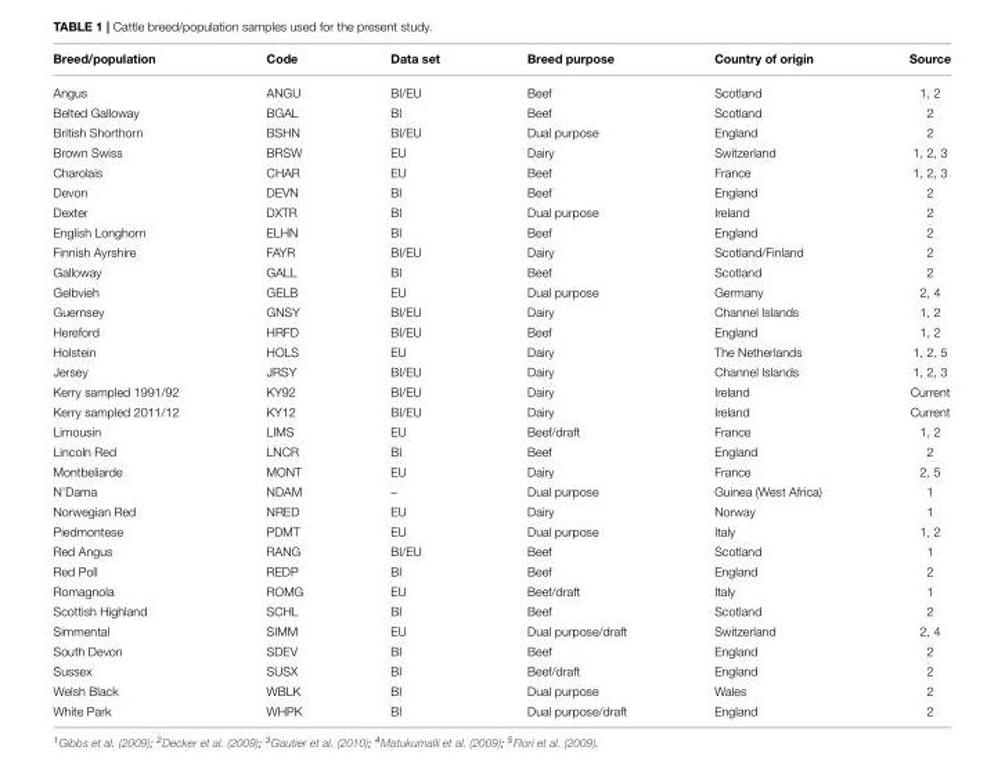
<table><thead><tr><td>Breed/population</td><td>Code</td><td>Data set</td><td>Breed purpose</td><td>Country of origin</td><td>Source</td></tr></thead><tbody><tr><td>Angus</td><td>ANGU</td><td>BI/EU</td><td>Beef</td><td>Scotland</td><td>1, 2</td></tr><tr><td>Belted Galloway</td><td>BGAL</td><td>BI</td><td>Beef</td><td>Scotland</td><td>2</td></tr><tr><td>British Shorthorn</td><td>BSHN</td><td>BI/EU</td><td>Dual purpose</td><td>England</td><td>2</td></tr><tr><td>Brown Swiss</td><td>BRSW</td><td>EU</td><td>Dairy</td><td>Switzerland</td><td>1, 2, 3</td></tr><tr><td>Charolais</td><td>CHAR</td><td>EU</td><td>Beef</td><td>France</td><td>1, 2, 3</td></tr><tr><td>Devon</td><td>DEVN</td><td>BI</td><td>Beef</td><td>England</td><td>2</td></tr><tr><td>Dexter</td><td>DXTR</td><td>BI</td><td>Dual purpose</td><td>Ireland</td><td>2</td></tr><tr><td>English Longhorn</td><td>ELHN</td><td>BI</td><td>Beef</td><td>England</td><td>2</td></tr><tr><td>Finnish Ayrshire</td><td>FAYR</td><td>BI/EU</td><td>Dairy</td><td>Scotland/Finland</td><td>2</td></tr><tr><td>Galloway</td><td>GALL</td><td>BI</td><td>Beef</td><td>Scotland</td><td>2</td></tr><tr><td>Gelbvieh</td><td>GELB</td><td>EU</td><td>Dual purpose</td><td>Germany</td><td>2, 4</td></tr><tr><td>Guernsey</td><td>GNSY</td><td>BI/EU</td><td>Dairy</td><td>Channel Islands</td><td>1, 2</td></tr><tr><td>Hereford</td><td>HRFD</td><td>BI/EU</td><td>Beef</td><td>England</td><td>1, 2</td></tr><tr><td>Holstein</td><td>HOLS</td><td>EU</td><td>Dairy</td><td>The Netherlands</td><td>1, 2, 5</td></tr><tr><td>Jersey</td><td>JRSY</td><td>BI/EU</td><td>Dairy</td><td>Channel Islands</td><td>1, 2, 3</td></tr><tr><td>Kerry sampled 1991/92</td><td>KY92</td><td>BI/EU</td><td>Dairy</td><td>Ireland</td><td>Current</td></tr><tr><td>Kerry sampled 2011/12</td><td>KY12</td><td>BI/EU</td><td>Dairy</td><td>Ireland</td><td>Current</td></tr><tr><td>Limousin</td><td>LIMS</td><td>EU</td><td>Beef/draft</td><td>France</td><td>1, 2</td></tr><tr><td>Lincoln Red</td><td>LNCR</td><td>BI</td><td>Beef</td><td>England</td><td>2</td></tr><tr><td>Montbeliarde</td><td>MONT</td><td>EU</td><td>Dairy</td><td>France</td><td>2, 5</td></tr><tr><td>N’Dama</td><td>NDAM</td><td>–</td><td>Dual purpose</td><td>Guinea (West Africa)</td><td>1</td></tr><tr><td>Norwegian Red</td><td>NRED</td><td>EU</td><td>Dairy</td><td>Norway</td><td>1</td></tr><tr><td>Piedmontese</td><td>PDMT</td><td>EU</td><td>Dual purpose</td><td>Italy</td><td>1, 2</td></tr><tr><td>Red Angus</td><td>RANG</td><td>BI/EU</td><td>Beef</td><td>Scotland</td><td>1</td></tr><tr><td>Red Poll</td><td>REDP</td><td>BI</td><td>Beef</td><td>England</td><td>2</td></tr><tr><td>Romagnola</td><td>ROMG</td><td>EU</td><td>Beef/draft</td><td>Italy</td><td>1</td></tr><tr><td>Scottish Highland</td><td>SCHL</td><td>BI</td><td>Beef</td><td>Scotland</td><td>2</td></tr><tr><td>Simmental</td><td>SIMM</td><td>EU</td><td>Dual purpose/draft</td><td>Switzerland</td><td>2, 4</td></tr><tr><td>South Devon</td><td>SDEV</td><td>BI</td><td>Beef</td><td>England</td><td>2</td></tr><tr><td>Sussex</td><td>SUSX</td><td>BI</td><td>Beef/draft</td><td>England</td><td>2</td></tr><tr><td>Welsh Black</td><td>WBLK</td><td>BI</td><td>Dual purpose</td><td>Wales</td><td>2</td></tr><tr><td>White Park</td><td>WHPK</td><td>BI</td><td>Dual purpose/draft</td><td>England</td><td>2</td></tr></tbody></table>